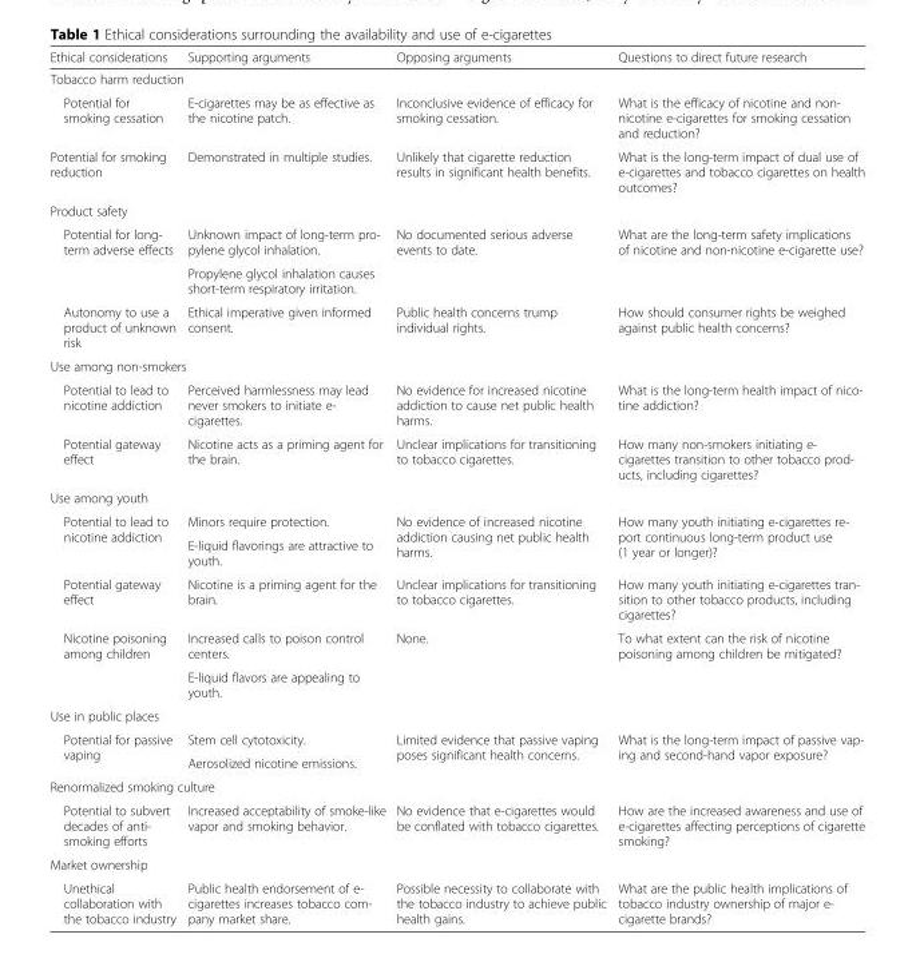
<table><thead><tr><td>Ethical considerations</td><td>Supporting arguments</td><td>Opposing arguments</td><td>Questions to direct future research</td></tr></thead><tbody><tr><td colspan="4">Tobacco harm reduction</td></tr><tr><td>Potential for smoking cessation</td><td>E-cigarettes may be as effective as the nicotine patch.</td><td>Inconclusive evidence of efficacy for smoking cessation.</td><td>What is the efficacy of nicotine and non- nicotine e-cigarettes for smoking cessation and reduction?</td></tr><tr><td>Potential for smoking reduction</td><td>Demonstrated in multiple studies.</td><td>Unlikely that cigarette reduction results in significant health benefits.</td><td>What is the long-term impact of dual use of e-cigarettes and tobacco cigarettes on health outcomes?</td></tr><tr><td colspan="4">Product safety</td></tr><tr><td rowspan="2">Potential for long- term adverse effects</td><td>Unknown impact of long-term pro- pylene glycol inhalation.</td><td rowspan="2">No documented serious adverse events to date.</td><td rowspan="2">What are the long-term safety implications of nicotine and non-nicotine e-cigarette use?</td></tr><tr><td>Propylene glycol inhalation causes short-term respiratory irritation.</td></tr><tr><td>Autonomy to use a product of unknown risk</td><td>Ethical imperative given informed consent.</td><td>Public health concerns trump individual rights.</td><td>How should consumer rights be weighed against public health concerns?</td></tr><tr><td colspan="4">Use among non-smokers</td></tr><tr><td>Potential to lead to nicotine addiction</td><td>Perceived harmlessness may lead never smokers to initiate e- cigarettes.</td><td>No evidence for increased nicotine addiction to cause net public health harms.</td><td>What is the long-term health impact of nico- tine addiction?</td></tr><tr><td>Potential gateway effect</td><td>Nicotine acts as a priming agent for the brain.</td><td>Unclear implications for transitioning to tobacco cigarettes.</td><td>How many non-smokers initiating e- cigarettes transition to other tobacco prod- ucts, including cigarettes?</td></tr><tr><td colspan="4">Use among youth</td></tr><tr><td rowspan="2">Potential to lead to nicotine addiction</td><td>Minors require protection.</td><td rowspan="2">No evidence of increased nicotine addiction causing net public health harms.</td><td rowspan="2">How many youth initiating e-cigarettes re- port continuous long-term product use (1 year or longer)?</td></tr><tr><td>E-liquid flavorings are attractive to youth.</td></tr><tr><td>Potential gateway effect</td><td>Nicotine is a priming agent for the brain.</td><td>Unclear implications for transitioning to tobacco cigarettes.</td><td>How many youth initiating e-cigarettes tran- sition to other tobacco products, including cigarettes?</td></tr><tr><td rowspan="2">Nicotine poisoning among children</td><td>Increased calls to poison control centers.</td><td rowspan="2">None.</td><td rowspan="2">To what extent can the risk of nicotine poisoning among children be mitigated?</td></tr><tr><td>E-liquid flavors are appealing to youth.</td></tr><tr><td colspan="4">Use in public places</td></tr><tr><td rowspan="2">Potential for passive vaping</td><td>Stem cell cytotoxicity.</td><td rowspan="2">Limited evidence that passive vaping poses significant health concerns.</td><td rowspan="2">What is the long-term impact of passive vap- ing and second-hand vapor exposure?</td></tr><tr><td>Aerosolized nicotine emissions.</td></tr><tr><td colspan="4">Renormalized smoking culture</td></tr><tr><td>Potential to subvert decades of anti- smoking efforts</td><td>Increased acceptability of smoke-like vapor and smoking behavior.</td><td>No evidence that e-cigarettes would be conflated with tobacco cigarettes.</td><td>How are the increased awareness and use of e-cigarettes affecting perceptions of cigarette smoking?</td></tr><tr><td colspan="4">Market ownership</td></tr><tr><td>Unethical collaboration with the tobacco industry</td><td>Public health endorsement of e- cigarettes increases tobacco com- pany market share.</td><td>Possible necessity to collaborate with the tobacco industry to achieve public health gains.</td><td>What are the public health implications of tobacco industry ownership of major e- cigarette brands?</td></tr></tbody></table>